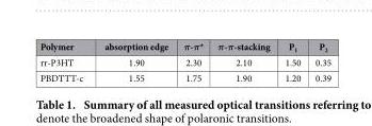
<table><thead><tr><td>Polymer</td><td>absorption edge</td><td>π-π*</td><td>π-π-stacking</td><td>P<sub>1</sub></td><td>P<sub>2</sub></td></tr></thead><tbody><tr><td>rr-P3HT</td><td>1.90</td><td>2.30</td><td>2.10</td><td>1.50</td><td>0.35</td></tr><tr><td>PBDTTT-c</td><td>1.55</td><td>1.75</td><td>1.90</td><td>1.20</td><td>0.39</td></tr></tbody></table>